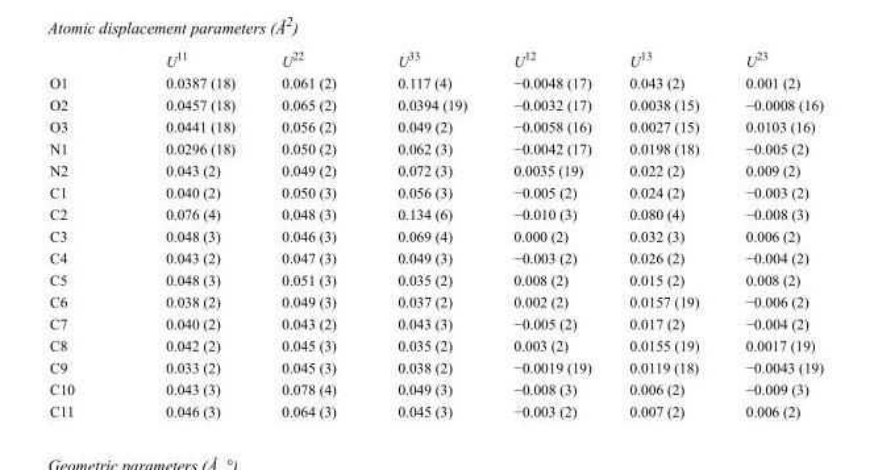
<table><thead><tr><td></td><td>U<sup>11</sup></td><td>U<sup>22</sup></td><td>U<sup>33</sup></td><td>U<sup>12</sup></td><td>U<sup>13</sup></td><td>U<sup>23</sup></td></tr></thead><tbody><tr><td>O1</td><td>0.0387 (18)</td><td>0.061 (2)</td><td>0.117 (4)</td><td>−0.0048 (17)</td><td>0.043 (2)</td><td>0.001 (2)</td></tr><tr><td>O2</td><td>0.0457 (18)</td><td>0.065 (2)</td><td>0.0394 (19)</td><td>−0.0032 (17)</td><td>0.0038 (15)</td><td>−0.0008 (16)</td></tr><tr><td>O3</td><td>0.0441 (18)</td><td>0.056 (2)</td><td>0.049 (2)</td><td>−0.0058 (16)</td><td>0.0027 (15)</td><td>0.0103 (16)</td></tr><tr><td>N1</td><td>0.0296 (18)</td><td>0.050 (2)</td><td>0.062 (3)</td><td>−0.0042 (17)</td><td>0.0198 (18)</td><td>−0.005 (2)</td></tr><tr><td>N2</td><td>0.043 (2)</td><td>0.049 (2)</td><td>0.072 (3)</td><td>0.0035 (19)</td><td>0.022 (2)</td><td>0.009 (2)</td></tr><tr><td>C1</td><td>0.040 (2)</td><td>0.050 (3)</td><td>0.056 (3)</td><td>−0.005 (2)</td><td>0.024 (2)</td><td>−0.003 (2)</td></tr><tr><td>C2</td><td>0.076 (4)</td><td>0.048 (3)</td><td>0.134 (6)</td><td>−0.010 (3)</td><td>0.080 (4)</td><td>−0.008 (3)</td></tr><tr><td>C3</td><td>0.048 (3)</td><td>0.046 (3)</td><td>0.069 (4)</td><td>0.000 (2)</td><td>0.032 (3)</td><td>0.006 (2)</td></tr><tr><td>C4</td><td>0.043 (2)</td><td>0.047 (3)</td><td>0.049 (3)</td><td>−0.003 (2)</td><td>0.026 (2)</td><td>−0.004 (2)</td></tr><tr><td>C5</td><td>0.048 (3)</td><td>0.051 (3)</td><td>0.035 (2)</td><td>0.008 (2)</td><td>0.015 (2)</td><td>0.008 (2)</td></tr><tr><td>C6</td><td>0.038 (2)</td><td>0.049 (3)</td><td>0.037 (2)</td><td>0.002 (2)</td><td>0.0157 (19)</td><td>−0.006 (2)</td></tr><tr><td>C7</td><td>0.040 (2)</td><td>0.043 (2)</td><td>0.043 (3)</td><td>−0.005 (2)</td><td>0.017 (2)</td><td>−0.004 (2)</td></tr><tr><td>C8</td><td>0.042 (2)</td><td>0.045 (3)</td><td>0.035 (2)</td><td>0.003 (2)</td><td>0.0155 (19)</td><td>0.0017 (19)</td></tr><tr><td>C9</td><td>0.033 (2)</td><td>0.045 (3)</td><td>0.038 (2)</td><td>−0.0019 (19)</td><td>0.0119 (18)</td><td>−0.0043 (19)</td></tr><tr><td>C10</td><td>0.043 (3)</td><td>0.078 (4)</td><td>0.049 (3)</td><td>−0.008 (3)</td><td>0.006 (2)</td><td>−0.009 (3)</td></tr><tr><td>C11</td><td>0.046 (3)</td><td>0.064 (3)</td><td>0.045 (3)</td><td>−0.003 (2)</td><td>0.007 (2)</td><td>0.006 (2)</td></tr></tbody></table>